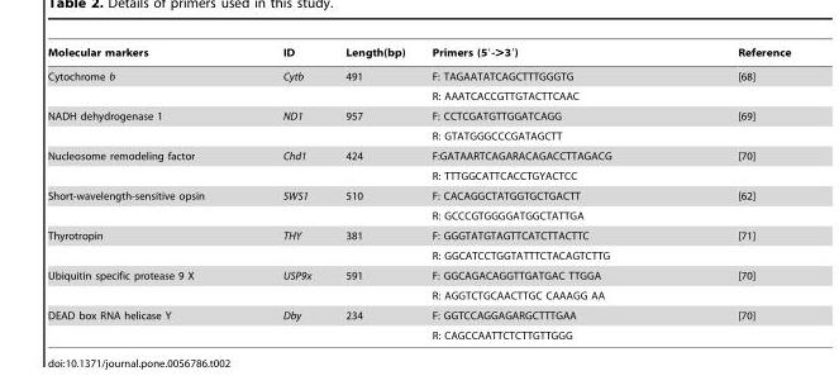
<table><thead><tr><td>Molecular markers</td><td>ID</td><td>Length(bp)</td><td>Primers (5′-&gt;3′)</td><td>Reference</td></tr></thead><tbody><tr><td rowspan="2">Cytochrome b</td><td>Cytb</td><td>491</td><td>F: TAGAATATCAGCTTTGGGTG</td><td>[68]</td></tr><tr><td></td><td></td><td>R: AAATCACCGTTGTACTTCAAC</td><td></td></tr><tr><td rowspan="2">NADH dehydrogenase 1</td><td>ND1</td><td>957</td><td>F: CCTCGATGTTGGATCAGG</td><td>[69]</td></tr><tr><td></td><td></td><td>R: GTATGGGCCCGATAGCTT</td><td></td></tr><tr><td rowspan="2">Nucleosome remodeling factor</td><td>Chd1</td><td>424</td><td>F:GATAARTCAGARACAGACCTTAGACG</td><td>[70]</td></tr><tr><td></td><td></td><td>R: TTTGGCATTCACCTGYACTCC</td><td></td></tr><tr><td rowspan="2">Short-wavelength-sensitive opsin</td><td>SWS1</td><td>510</td><td>F: CACAGGCTATGGTGCTGACTT</td><td>[62]</td></tr><tr><td></td><td></td><td>R: GCCCGTGGGGATGGCTATTGA</td><td></td></tr><tr><td rowspan="2">Thyrotropin</td><td>THY</td><td>381</td><td>F: GGGTATGTAGTTCATCTTACTTC</td><td>[71]</td></tr><tr><td></td><td></td><td>R: GGCATCCTGGTATTTCTACAGTCTTG</td><td></td></tr><tr><td rowspan="2">Ubiquitin specific protease 9 X</td><td>USP9x</td><td>591</td><td>F: GGCAGACAGGTTGATGAC TTGGA</td><td>[70]</td></tr><tr><td></td><td></td><td>R: AGGTCTGCAACTTGC CAAAGG AA</td><td></td></tr><tr><td rowspan="2">DEAD box RNA helicase Y</td><td>Dby</td><td>234</td><td>F: GGTCCAGGAGARGCTTTGAA</td><td>[70]</td></tr><tr><td></td><td></td><td>R: CAGCCAATTCTCTTGTTGGG</td><td></td></tr></tbody></table>